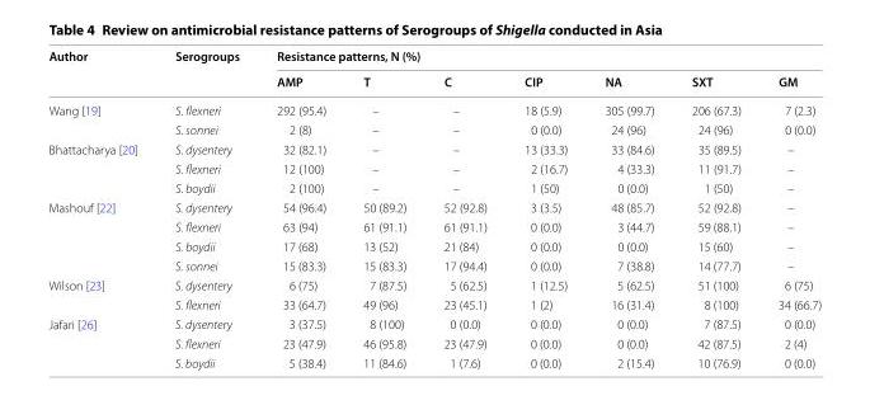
<table><thead><tr><td rowspan="2">Author</td><td rowspan="2">Serogroups</td><td colspan="7">Resistance patterns, N (%)</td></tr><tr><td>AMP</td><td>T</td><td>C</td><td>CIP</td><td>NA</td><td>SXT</td><td>GM</td></tr></thead><tbody><tr><td rowspan="2">Wang [19]</td><td>S. flexneri</td><td>292 (95.4)</td><td>–</td><td>–</td><td>18 (5.9)</td><td>305 (99.7)</td><td>206 (67.3)</td><td>7 (2.3)</td></tr><tr><td>S. sonnei</td><td>2 (8)</td><td>–</td><td>–</td><td>0 (0.0)</td><td>24 (96)</td><td>24 (96)</td><td>0 (0.0)</td></tr><tr><td rowspan="3">Bhattacharya [20]</td><td>S. dysentery</td><td>32 (82.1)</td><td>–</td><td>–</td><td>13 (33.3)</td><td>33 (84.6)</td><td>35 (89.5)</td><td>–</td></tr><tr><td>S. flexneri</td><td>12 (100)</td><td>–</td><td>–</td><td>2 (16.7)</td><td>4 (33.3)</td><td>11 (91.7)</td><td>–</td></tr><tr><td>S. boydii</td><td>2 (100)</td><td>–</td><td>–</td><td>1 (50)</td><td>0 (0.0)</td><td>1 (50)</td><td>–</td></tr><tr><td rowspan="4">Mashouf [22]</td><td>S. dysentery</td><td>54 (96.4)</td><td>50 (89.2)</td><td>52 (92.8)</td><td>3 (3.5)</td><td>48 (85.7)</td><td>52 (92.8)</td><td>–</td></tr><tr><td>S. flexneri</td><td>63 (94)</td><td>61 (91.1)</td><td>61 (91.1)</td><td>0 (0.0)</td><td>3 (44.7)</td><td>59 (88.1)</td><td>–</td></tr><tr><td>S. boydii</td><td>17 (68)</td><td>13 (52)</td><td>21 (84)</td><td>0 (0.0)</td><td>0 (0.0)</td><td>15 (60)</td><td>–</td></tr><tr><td>S. sonnei</td><td>15 (83.3)</td><td>15 (83.3)</td><td>17 (94.4)</td><td>0 (0.0)</td><td>7 (38.8)</td><td>14 (77.7)</td><td>–</td></tr><tr><td rowspan="2">Wilson [23]</td><td>S. dysentery</td><td>6 (75)</td><td>7 (87.5)</td><td>5 (62.5)</td><td>1 (12.5)</td><td>5 (62.5)</td><td>51 (100)</td><td>6 (75)</td></tr><tr><td>S. flexneri</td><td>33 (64.7)</td><td>49 (96)</td><td>23 (45.1)</td><td>1 (2)</td><td>16 (31.4)</td><td>8 (100)</td><td>34 (66.7)</td></tr><tr><td rowspan="3">Jafari [26]</td><td>S. dysentery</td><td>3 (37.5)</td><td>8 (100)</td><td>0 (0.0)</td><td>0 (0.0)</td><td>0 (0.0)</td><td>7 (87.5)</td><td>0 (0.0)</td></tr><tr><td>S. flexneri</td><td>23 (47.9)</td><td>46 (95.8)</td><td>23 (47.9)</td><td>0 (0.0)</td><td>0 (0.0)</td><td>42 (87.5)</td><td>2 (4)</td></tr><tr><td>S. boydii</td><td>5 (38.4)</td><td>11 (84.6)</td><td>1 (7.6)</td><td>0 (0.0)</td><td>2 (15.4)</td><td>10 (76.9)</td><td>0 (0.0)</td></tr></tbody></table>